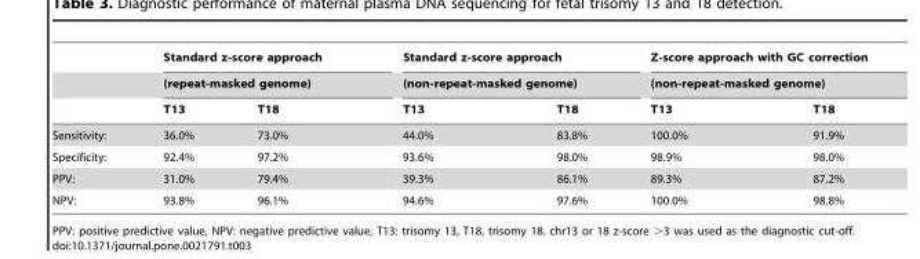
<table><thead><tr><td rowspan="3"></td><td rowspan="2" colspan="2">Standard z-score approach (repeat-masked genome)</td><td rowspan="2" colspan="2">Standard z-score approach (non-repeat-masked genome)</td><td rowspan="2" colspan="2">Z-score approach with GC correction (non-repeat-masked genome)</td></tr><tr></tr><tr><td>T13</td><td>T18</td><td>T13</td><td>T18</td><td>T13</td><td>T18</td></tr></thead><tbody><tr><td>Sensitivity:</td><td>36.0%</td><td>73.0%</td><td>44.0%</td><td>83.8%</td><td>100.0%</td><td>91.9%</td></tr><tr><td>Specificity:</td><td>92.4%</td><td>97.2%</td><td>93.6%</td><td>98.0%</td><td>98.9%</td><td>98.0%</td></tr><tr><td>PPV:</td><td>31.0%</td><td>79.4%</td><td>39.3%</td><td>86.1%</td><td>89.3%</td><td>87.2%</td></tr><tr><td>NPV:</td><td>93.8%</td><td>96.1%</td><td>94.6%</td><td>97.6%</td><td>100.0%</td><td>98.8%</td></tr></tbody></table>